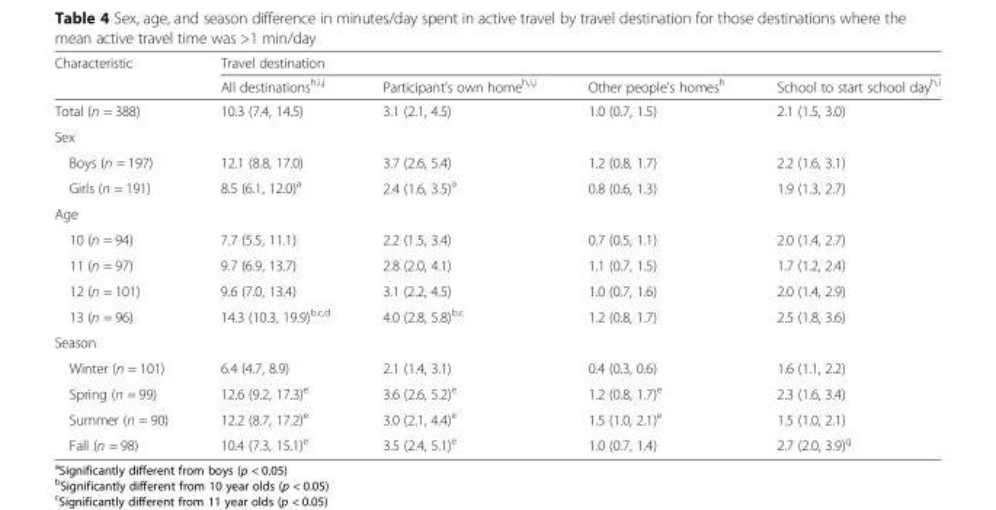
<table><thead><tr><td rowspan="2">Characteristic</td><td colspan="4">Travel destination</td></tr><tr><td>All destinations<sup>h,i,j</sup></td><td>Participant’s own home<sup>h,i,j</sup></td><td>Other people’s homes<sup>h</sup></td><td>School to start school day<sup>h,i</sup></td></tr></thead><tbody><tr><td>Total (n = 388)</td><td>10.3 (7.4, 14.5)</td><td>3.1 (2.1, 4.5)</td><td>1.0 (0.7, 1.5)</td><td>2.1 (1.5, 3.0)</td></tr><tr><td colspan="5">Sex</td></tr><tr><td>Boys (n = 197)</td><td>12.1 (8.8, 17.0)</td><td>3.7 (2.6, 5.4)</td><td>1.2 (0.8, 1.7)</td><td>2.2 (1.6, 3.1)</td></tr><tr><td>Girls (n = 191)</td><td>8.5 (6.1, 12.0)<sup>a</sup></td><td>2.4 (1.6, 3.5)<sup>a</sup></td><td>0.8 (0.6, 1.3)</td><td>1.9 (1.3, 2.7)</td></tr><tr><td colspan="5">Age</td></tr><tr><td>10 (n = 94)</td><td>7.7 (5.5, 11.1)</td><td>2.2 (1.5, 3.4)</td><td>0.7 (0.5, 1.1)</td><td>2.0 (1.4, 2.7)</td></tr><tr><td>11 (n = 97)</td><td>9.7 (6.9, 13.7)</td><td>2.8 (2.0, 4.1)</td><td>1.1 (0.7, 1.5)</td><td>1.7 (1.2, 2.4)</td></tr><tr><td>12 (n = 101)</td><td>9.6 (7.0, 13.4)</td><td>3.1 (2.2, 4.5)</td><td>1.0 (0.7, 1.6)</td><td>2.0 (1.4, 2.9)</td></tr><tr><td>13 (n = 96)</td><td>14.3 (10.3, 19.9)<sup>b,c,d</sup></td><td>4.0 (2.8, 5.8)<sup>b,c</sup></td><td>1.2 (0.8, 1.7)</td><td>2.5 (1.8, 3.6)</td></tr><tr><td colspan="5">Season</td></tr><tr><td>Winter (n = 101)</td><td>6.4 (4.7, 8.9)</td><td>2.1 (1.4, 3.1)</td><td>0.4 (0.3, 0.6)</td><td>1.6 (1.1, 2.2)</td></tr><tr><td>Spring (n = 99)</td><td>12.6 (9.2, 17.3)<sup>e</sup></td><td>3.6 (2.6, 5.2)<sup>e</sup></td><td>1.2 (0.8, 1.7)<sup>e</sup></td><td>2.3 (1.6, 3.4)</td></tr><tr><td>Summer (n = 90)</td><td>12.2 (8.7, 17.2)<sup>e</sup></td><td>3.0 (2.1, 4.4)<sup>e</sup></td><td>1.5 (1.0, 2.1)<sup>e</sup></td><td>1.5 (1.0, 2.1)</td></tr><tr><td>Fall (n = 98)</td><td>10.4 (7.3, 15.1)<sup>e</sup></td><td>3.5 (2.4, 5.1)<sup>e</sup></td><td>1.0 (0.7, 1.4)</td><td>2.7 (2.0, 3.9)<sup>g</sup></td></tr></tbody></table>